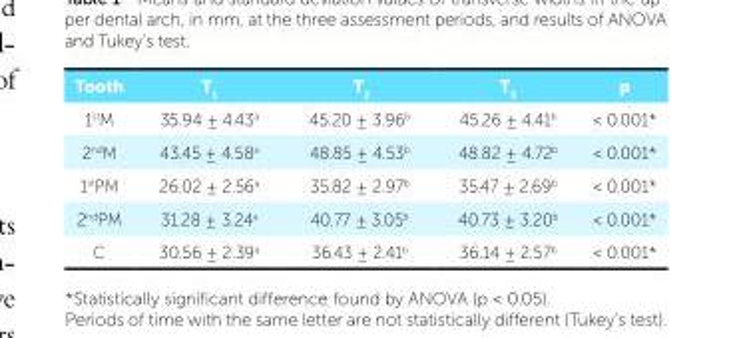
<table><thead><tr><td>Tooth</td><td>T<sub>1</sub></td><td>T<sub>2</sub></td><td>T<sub>3</sub></td><td>p</td></tr></thead><tbody><tr><td>1<sup>st</sup>M</td><td>35.94 ± 4.43<sup>a</sup></td><td>45.20 ± 3.96<sup>b</sup></td><td>45.26 ± 4.41<sup>b</sup></td><td>&lt; 0.001*</td></tr><tr><td>2<sup>nd</sup>M</td><td>43.45 ± 4.58<sup>a</sup></td><td>48.85 ± 4.53<sup>b</sup></td><td>48.82 ± 4.72<sup>b</sup></td><td>&lt; 0.001*</td></tr><tr><td>1<sup>st</sup>PM</td><td>26.02 ± 2.56<sup>a</sup></td><td>35.82 ± 2.97<sup>b</sup></td><td>35.47 ± 2.69<sup>b</sup></td><td>&lt; 0.001*</td></tr><tr><td>2<sup>nd</sup>PM</td><td>31.28 ± 3.24<sup>a</sup></td><td>40.77 ± 3.05<sup>b</sup></td><td>40.73 ± 3.20<sup>b</sup></td><td>&lt; 0.001*</td></tr><tr><td>C</td><td>30.56 ± 2.39<sup>a</sup></td><td>36.43 ± 2.41<sup>b</sup></td><td>36.14 ± 2.57<sup>b</sup></td><td>&lt; 0.001*</td></tr></tbody></table>